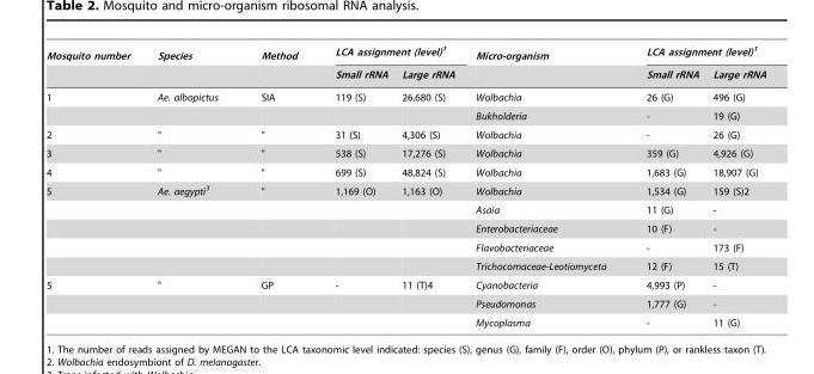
<table><thead><tr><td rowspan="2">Mosquito number</td><td rowspan="2">Species</td><td rowspan="2">Method</td><td colspan="2">LCA assignment (level)<sup>1</sup></td><td rowspan="2">Micro-organism</td><td colspan="2">LCA assignment (level)<sup>1</sup></td></tr><tr><td>Small rRNA</td><td>Large rRNA</td><td>Small rRNA</td><td>Large rRNA</td></tr></thead><tbody><tr><td rowspan="2">1</td><td>Ae. albopictus</td><td>SIA</td><td>119 (S)</td><td>26,680 (S)</td><td>Wolbachia</td><td>26 (G)</td><td>496 (G)</td></tr><tr><td></td><td></td><td></td><td></td><td>Bukholderia</td><td>-</td><td>19 (G)</td></tr><tr><td>2</td><td>&quot;</td><td>&quot;</td><td>31 (S)</td><td>4,306 (S)</td><td>Wolbachia</td><td>-</td><td>26 (G)</td></tr><tr><td>3</td><td>&quot;</td><td>&quot;</td><td>538 (S)</td><td>17,276 (S)</td><td>Wolbachia</td><td>359 (G)</td><td>4,926 (G)</td></tr><tr><td>4</td><td>&quot;</td><td>&quot;</td><td>699 (S)</td><td>48,824 (S)</td><td>Wolbachia</td><td>1,683 (G)</td><td>18,907 (G)</td></tr><tr><td rowspan="5">5</td><td>Ae. aegypti<sup>3</sup></td><td>&quot;</td><td>1,169 (O)</td><td>1,163 (O)</td><td>Wolbachia</td><td>1,534 (G)</td><td>159 (S)2</td></tr><tr><td></td><td></td><td></td><td></td><td>Asaia</td><td>11 (G)</td><td>-</td></tr><tr><td></td><td></td><td></td><td></td><td>Enterobacteriaceae</td><td>10 (F)</td><td>-</td></tr><tr><td></td><td></td><td></td><td></td><td>Flavobacteriaceae</td><td>-</td><td>173 (F)</td></tr><tr><td></td><td></td><td></td><td></td><td>Trichocomaceae-Leotiomyceta</td><td>12 (F)</td><td>15 (T)</td></tr><tr><td rowspan="3">5</td><td>&quot;</td><td>GP</td><td>-</td><td>11 (T)4</td><td>Cyanobacteria</td><td>4,993 (P)</td><td>-</td></tr><tr><td></td><td></td><td></td><td></td><td>Pseudomonas</td><td>1,777 (G)</td><td>-</td></tr><tr><td></td><td></td><td></td><td></td><td>Mycoplasma</td><td>-</td><td>11 (G)</td></tr></tbody></table>